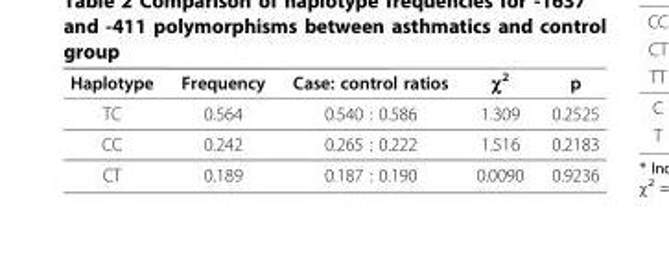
<table><thead><tr><td>Haplotype</td><td>Frequency</td><td>Case: control ratios</td><td>χ<sup>2</sup></td><td>p</td></tr></thead><tbody><tr><td>TC</td><td>0.564</td><td>0.540 : 0.586</td><td>1.309</td><td>0.2525</td></tr><tr><td>CC</td><td>0.242</td><td>0.265 : 0.222</td><td>1.516</td><td>0.2183</td></tr><tr><td>CT</td><td>0.189</td><td>0.187 : 0.190</td><td>0.0090</td><td>0.9236</td></tr></tbody></table>